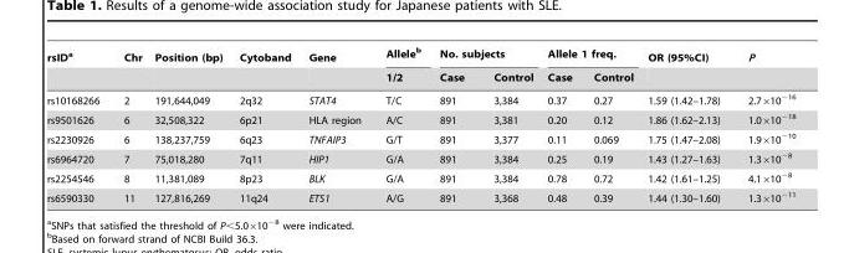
<table><thead><tr><td rowspan="2">rsID<sup>a</sup></td><td rowspan="2">Chr</td><td rowspan="2">Position (bp)</td><td rowspan="2">Cytoband</td><td rowspan="2">Gene</td><td rowspan="2">Allele<sup>b</sup> 1/2</td><td colspan="2">No. subjects</td><td colspan="2">Allele 1 freq.</td><td rowspan="2">OR (95%CI)</td><td rowspan="2">P</td></tr><tr><td>Case</td><td>Control</td><td>Case</td><td>Control</td></tr></thead><tbody><tr><td>rs10168266</td><td>2</td><td>191,644,049</td><td>2q32</td><td>STAT4</td><td>T/C</td><td>891</td><td>3,384</td><td>0.37</td><td>0.27</td><td>1.59 (1.42–1.78)</td><td>2.7×10<sup>−16</sup></td></tr><tr><td>rs9501626</td><td>6</td><td>32,508,322</td><td>6p21</td><td>HLA region</td><td>A/C</td><td>891</td><td>3,381</td><td>0.20</td><td>0.12</td><td>1.86 (1.62–2.13)</td><td>1.0×10<sup>−18</sup></td></tr><tr><td>rs2230926</td><td>6</td><td>138,237,759</td><td>6q23</td><td>TNFAIP3</td><td>G/T</td><td>891</td><td>3,377</td><td>0.11</td><td>0.069</td><td>1.75 (1.47–2.08)</td><td>1.9×10<sup>−10</sup></td></tr><tr><td>rs6964720</td><td>7</td><td>75,018,280</td><td>7q11</td><td>HIP1</td><td>G/A</td><td>891</td><td>3,384</td><td>0.25</td><td>0.19</td><td>1.43 (1.27–1.63)</td><td>1.3×10<sup>−8</sup></td></tr><tr><td>rs2254546</td><td>8</td><td>11,381,089</td><td>8p23</td><td>BLK</td><td>G/A</td><td>891</td><td>3,384</td><td>0.78</td><td>0.72</td><td>1.42 (1.61–1.25)</td><td>4.1×10<sup>−8</sup></td></tr><tr><td>rs6590330</td><td>11</td><td>127,816,269</td><td>11q24</td><td>ETS1</td><td>A/G</td><td>891</td><td>3,368</td><td>0.48</td><td>0.39</td><td>1.44 (1.30–1.60)</td><td>1.3×10<sup>−11</sup></td></tr></tbody></table>